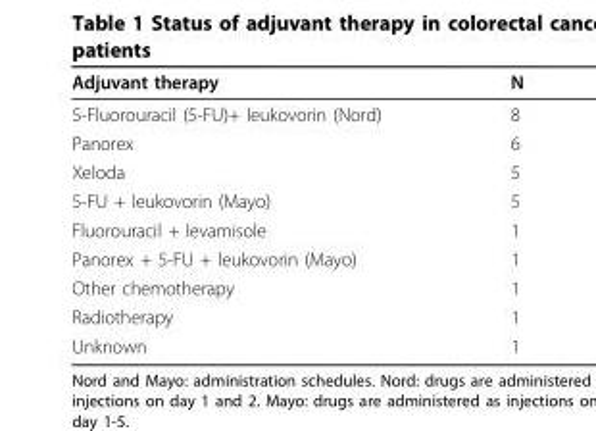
<table><thead><tr><td>Adjuvant therapy</td><td>N</td></tr></thead><tbody><tr><td>5-Fluorouracil (5-FU)+ leukovorin (Nord)</td><td>8</td></tr><tr><td>Panorex</td><td>6</td></tr><tr><td>Xeloda</td><td>5</td></tr><tr><td>5-FU + leukovorin (Mayo)</td><td>5</td></tr><tr><td>Fluorouracil + levamisole</td><td>1</td></tr><tr><td>Panorex + 5-FU + leukovorin (Mayo)</td><td>1</td></tr><tr><td>Other chemotherapy</td><td>1</td></tr><tr><td>Radiotherapy</td><td>1</td></tr><tr><td>Unknown</td><td>1</td></tr></tbody></table>